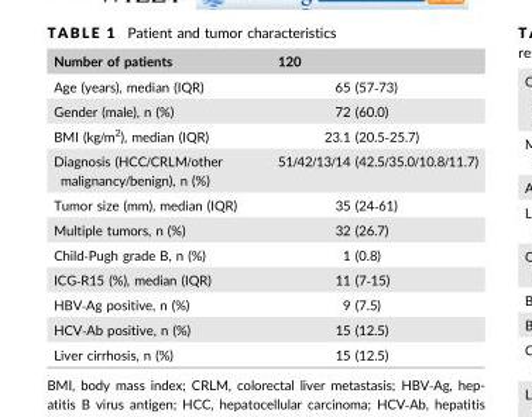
<table><thead><tr><td>Number of patients</td><td>120</td></tr></thead><tbody><tr><td>Age (years), median (IQR)</td><td>65 (57‐73)</td></tr><tr><td>Gender (male), n (%)</td><td>72 (60.0)</td></tr><tr><td>BMI (kg/m<sup>2</sup>), median (IQR)</td><td>23.1 (20.5‐25.7)</td></tr><tr><td>Diagnosis (HCC/CRLM/other malignancy/benign), n (%)</td><td>51/42/13/14 (42.5/35.0/10.8/11.7)</td></tr><tr><td>Tumor size (mm), median (IQR)</td><td>35 (24‐61)</td></tr><tr><td>Multiple tumors, n (%)</td><td>32 (26.7)</td></tr><tr><td>Child‐Pugh grade B, n (%)</td><td>1 (0.8)</td></tr><tr><td>ICG‐R15 (%), median (IQR)</td><td>11 (7‐15)</td></tr><tr><td>HBV‐Ag positive, n (%)</td><td>9 (7.5)</td></tr><tr><td>HCV‐Ab positive, n (%)</td><td>15 (12.5)</td></tr><tr><td>Liver cirrhosis, n (%)</td><td>15 (12.5)</td></tr></tbody></table>